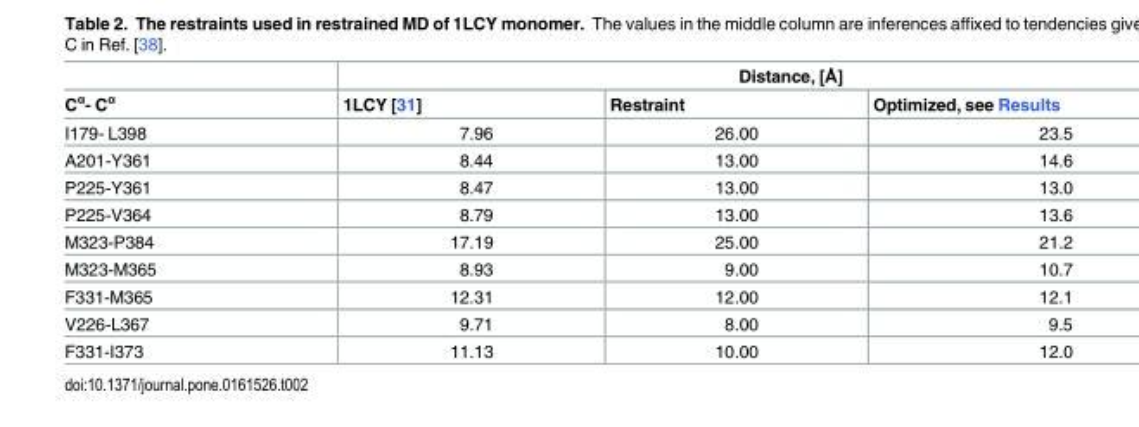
<table><thead><tr><td rowspan="2">C<sup>α</sup>- C<sup>α</sup></td><td colspan="3">Distance, [Å]</td></tr><tr><td>1LCY [31]</td><td>Restraint</td><td>Optimized, see Results</td></tr></thead><tbody><tr><td>I179- L398</td><td>7.96</td><td>26.00</td><td>23.5</td></tr><tr><td>A201-Y361</td><td>8.44</td><td>13.00</td><td>14.6</td></tr><tr><td>P225-Y361</td><td>8.47</td><td>13.00</td><td>13.0</td></tr><tr><td>P225-V364</td><td>8.79</td><td>13.00</td><td>13.6</td></tr><tr><td>M323-P384</td><td>17.19</td><td>25.00</td><td>21.2</td></tr><tr><td>M323-M365</td><td>8.93</td><td>9.00</td><td>10.7</td></tr><tr><td>F331-M365</td><td>12.31</td><td>12.00</td><td>12.1</td></tr><tr><td>V226-L367</td><td>9.71</td><td>8.00</td><td>9.5</td></tr><tr><td>F331-I373</td><td>11.13</td><td>10.00</td><td>12.0</td></tr></tbody></table>